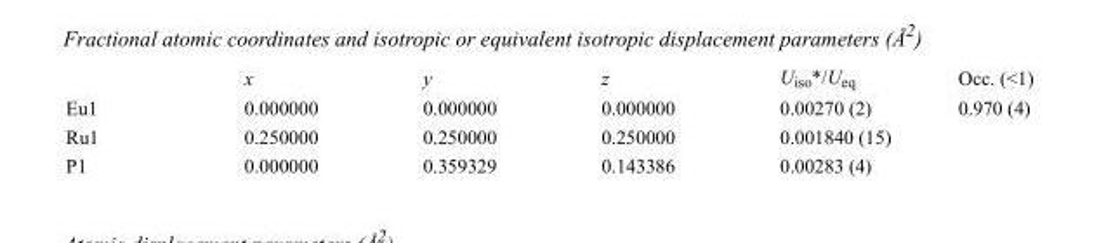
<table><thead><tr><td></td><td>x</td><td>y</td><td>z</td><td>U<sub>iso</sub>*/U<sub>eq</sub></td><td>Occ. (&lt;1)</td></tr></thead><tbody><tr><td>Eu1</td><td>0.000000</td><td>0.000000</td><td>0.000000</td><td>0.00270 (2)</td><td>0.970 (4)</td></tr><tr><td>Ru1</td><td>0.250000</td><td>0.250000</td><td>0.250000</td><td>0.001840 (15)</td><td></td></tr><tr><td>P1</td><td>0.000000</td><td>0.359329</td><td>0.143386</td><td>0.00283 (4)</td><td></td></tr></tbody></table>